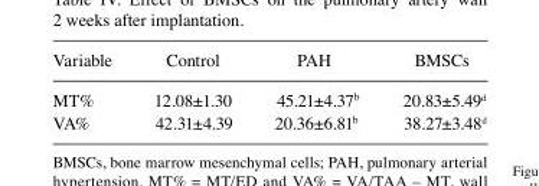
<table><thead><tr><td>Variable</td><td>Control</td><td>PAH</td><td>BMSCs</td></tr></thead><tbody><tr><td>MT%</td><td>12.08±1.30</td><td>45.21±4.37<sup>b</sup></td><td>20.83±5.49<sup>d</sup></td></tr><tr><td>VA%</td><td>42.31±4.39</td><td>20.36±6.81<sup>b</sup></td><td>38.27±3.48<sup>d</sup></td></tr></tbody></table>